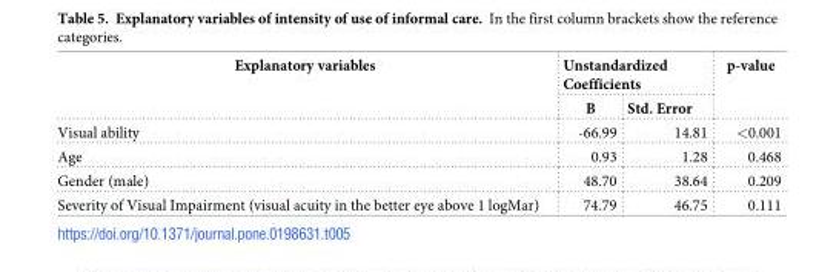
<table><thead><tr><td rowspan="2">Explanatory variables</td><td colspan="2">Unstandardized Coefficients</td><td rowspan="2">p-value</td></tr><tr><td>B</td><td>Std. Error</td></tr></thead><tbody><tr><td>Visual ability</td><td>-66.99</td><td>14.81</td><td>&lt;0.001</td></tr><tr><td>Age</td><td>0.93</td><td>1.28</td><td>0.468</td></tr><tr><td>Gender (male)</td><td>48.70</td><td>38.64</td><td>0.209</td></tr><tr><td>Severity of Visual Impairment (visual acuity in the better eye above 1 logMar)</td><td>74.79</td><td>46.75</td><td>0.111</td></tr></tbody></table>